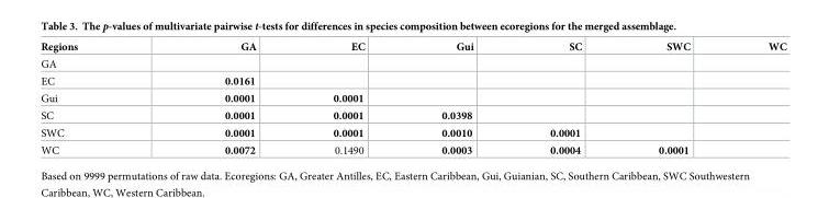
<table><thead><tr><td>Regions</td><td>GA</td><td>EC</td><td>Gui</td><td>SC</td><td>SWC</td><td>WC</td></tr></thead><tbody><tr><td colspan="7">GA</td></tr><tr><td>EC</td><td>0.0161</td><td></td><td></td><td></td><td></td><td></td></tr><tr><td>Gui</td><td>0.0001</td><td>0.0001</td><td></td><td></td><td></td><td></td></tr><tr><td>SC</td><td>0.0001</td><td>0.0001</td><td>0.0398</td><td></td><td></td><td></td></tr><tr><td>SWC</td><td>0.0001</td><td>0.0001</td><td>0.0010</td><td>0.0001</td><td></td><td></td></tr><tr><td>WC</td><td>0.0072</td><td>0.1490</td><td>0.0003</td><td>0.0004</td><td>0.0001</td><td></td></tr></tbody></table>